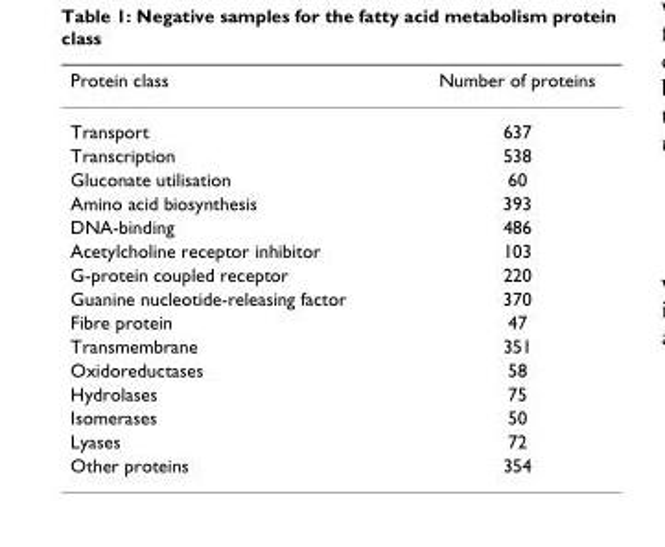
<table><thead><tr><td>Protein class</td><td>Number of proteins</td></tr></thead><tbody><tr><td>Transport</td><td>637</td></tr><tr><td>Transcription</td><td>538</td></tr><tr><td>Gluconate utilisation</td><td>60</td></tr><tr><td>Amino acid biosynthesis</td><td>393</td></tr><tr><td>DNA-binding</td><td>486</td></tr><tr><td>Acetylcholine receptor inhibitor</td><td>103</td></tr><tr><td>G-protein coupled receptor</td><td>220</td></tr><tr><td>Guanine nucleotide-releasing factor</td><td>370</td></tr><tr><td>Fibre protein</td><td>47</td></tr><tr><td>Transmembrane</td><td>351</td></tr><tr><td>Oxidoreductases</td><td>58</td></tr><tr><td>Hydrolases</td><td>75</td></tr><tr><td>Isomerases</td><td>50</td></tr><tr><td>Lyases</td><td>72</td></tr><tr><td>Other proteins</td><td>354</td></tr></tbody></table>